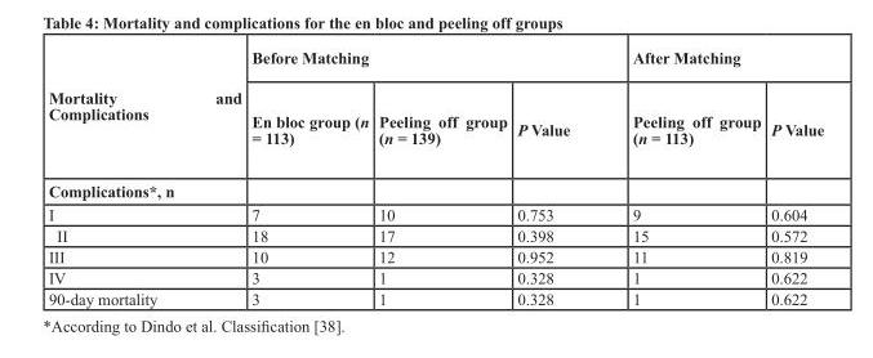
<table><thead><tr><td rowspan="2">Mortality and Complications</td><td colspan="3">Before Matching</td><td colspan="2">After Matching</td></tr><tr><td>En bloc group (n = 113)</td><td>Peeling off group (n = 139)</td><td>P Value</td><td>Peeling off group (n = 113)</td><td>P Value</td></tr></thead><tbody><tr><td colspan="6">Complications*, n</td></tr><tr><td>I</td><td>7</td><td>10</td><td>0.753</td><td>9</td><td>0.604</td></tr><tr><td>II</td><td>18</td><td>17</td><td>0.398</td><td>15</td><td>0.572</td></tr><tr><td>III</td><td>10</td><td>12</td><td>0.952</td><td>11</td><td>0.819</td></tr><tr><td>IV</td><td>3</td><td>1</td><td>0.328</td><td>1</td><td>0.622</td></tr><tr><td>90-day mortality</td><td>3</td><td>1</td><td>0.328</td><td>1</td><td>0.622</td></tr></tbody></table>